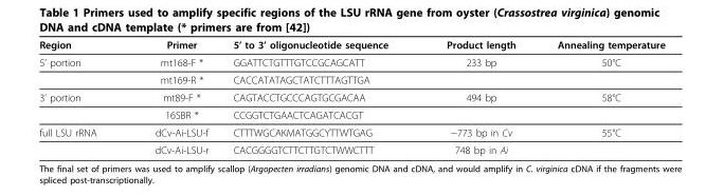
<table><thead><tr><td>Region</td><td>Primer</td><td>5’ to 3’ oligonucleotide sequence</td><td>Product length</td><td>Annealing temperature</td></tr></thead><tbody><tr><td rowspan="2">5’ portion</td><td>mt168-F *</td><td>GGATTCTGTTTGTCCGCAGCATT</td><td>233 bp</td><td>50°C</td></tr><tr><td>mt169-R *</td><td>CACCATATAGCTATCTTTAGTTGA</td><td></td><td></td></tr><tr><td rowspan="2">3’ portion</td><td>mt89-F *</td><td>CAGTACCTGCCCAGTGCGACAA</td><td>494 bp</td><td>58°C</td></tr><tr><td>16SBR *</td><td>CCGGTCTGAACTCAGATCACGT</td><td></td><td></td></tr><tr><td rowspan="2">full LSU rRNA</td><td>dCv-Ai-LSU-f</td><td>CTTTWGCAKMATGGCYTTWTGAG</td><td>~773 bp in Cv</td><td>55°C</td></tr><tr><td>dCv-Ai-LSU-r</td><td>CACGGGGTCTTCTTGTCTWWCTTT</td><td>748 bp in Ai</td><td></td></tr></tbody></table>